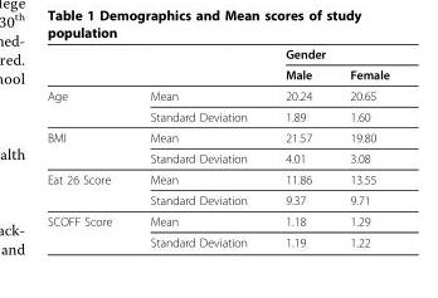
<table><thead><tr><td rowspan="2"></td><td rowspan="2"></td><td colspan="2">Gender</td></tr><tr><td>Male</td><td>Female</td></tr></thead><tbody><tr><td rowspan="2">Age</td><td>Mean</td><td>20.24</td><td>20.65</td></tr><tr><td>Standard Deviation</td><td>1.89</td><td>1.60</td></tr><tr><td rowspan="2">BMI</td><td>Mean</td><td>21.57</td><td>19.80</td></tr><tr><td>Standard Deviation</td><td>4.01</td><td>3.08</td></tr><tr><td rowspan="2">Eat 26 Score</td><td>Mean</td><td>11.86</td><td>13.55</td></tr><tr><td>Standard Deviation</td><td>9.37</td><td>9.71</td></tr><tr><td rowspan="2">SCOFF Score</td><td>Mean</td><td>1.18</td><td>1.29</td></tr><tr><td>Standard Deviation</td><td>1.19</td><td>1.22</td></tr></tbody></table>